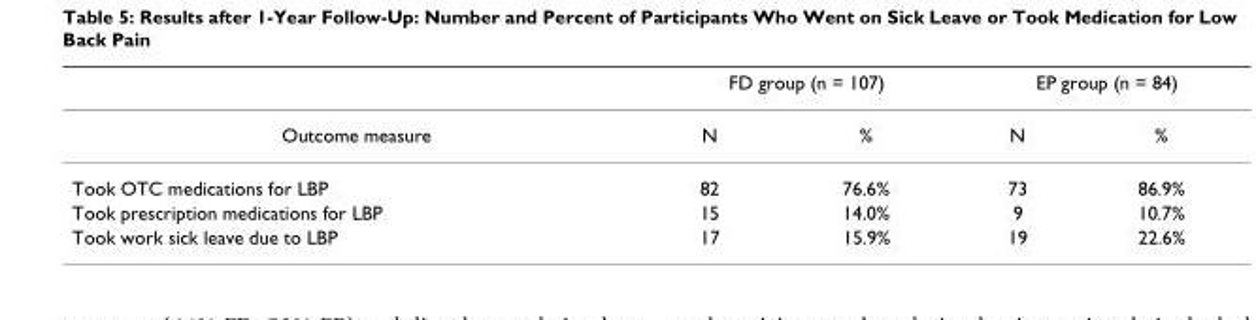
<table><thead><tr><td rowspan="2">Outcome measure</td><td colspan="2">FD group (n = 107)</td><td colspan="2">EP group (n = 84)</td></tr><tr><td>N</td><td>%</td><td>N</td><td>%</td></tr></thead><tbody><tr><td>Took OTC medications for LBP</td><td>82</td><td>76.6%</td><td>73</td><td>86.9%</td></tr><tr><td>Took prescription medications for LBP</td><td>15</td><td>14.0%</td><td>9</td><td>10.7%</td></tr><tr><td>Took work sick leave due to LBP</td><td>17</td><td>15.9%</td><td>19</td><td>22.6%</td></tr></tbody></table>